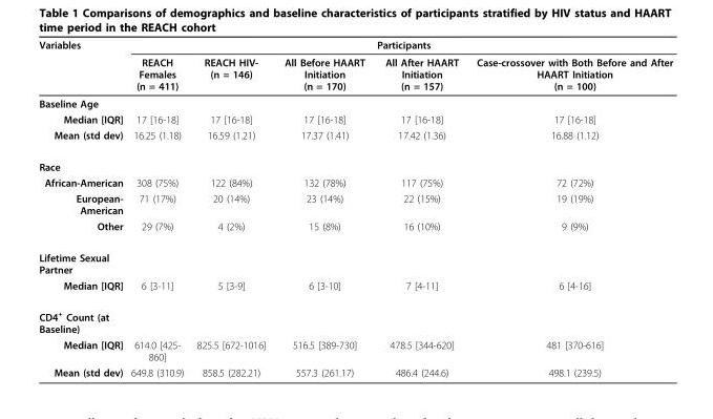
<table><thead><tr><td rowspan="2">Variables</td><td colspan="5">Participants</td></tr><tr><td>REACH Females (n = 411)</td><td>REACH HIV- (n = 146)</td><td>All Before HAART Initiation (n = 170)</td><td>All After HAART Initiation (n = 157)</td><td>Case-crossover with Both Before and After HAART Initiation (n = 100)</td></tr></thead><tbody><tr><td colspan="6">Baseline Age</td></tr><tr><td>Median [IQR]</td><td>17 [16-18]</td><td>17 [16-18]</td><td>17 [16-18]</td><td>17 [16-18]</td><td>17 [16-18]</td></tr><tr><td>Mean (std dev)</td><td>16.25 (1.18)</td><td>16.59 (1.21)</td><td>17.37 (1.41)</td><td>17.42 (1.36)</td><td>16.88 (1.12)</td></tr><tr><td colspan="6">Race</td></tr><tr><td>African-American</td><td>308 (75%)</td><td>122 (84%)</td><td>132 (78%)</td><td>117 (75%)</td><td>72 (72%)</td></tr><tr><td>European- American</td><td>71 (17%)</td><td>20 (14%)</td><td>23 (14%)</td><td>22 (15%)</td><td>19 (19%)</td></tr><tr><td>Other</td><td>29 (7%)</td><td>4 (2%)</td><td>15 (8%)</td><td>16 (10%)</td><td>9 (9%)</td></tr><tr><td colspan="6">Lifetime Sexual Partner</td></tr><tr><td>Median [IQR]</td><td>6 [3-11]</td><td>5 [3-9]</td><td>6 [3-10]</td><td>7 [4-11]</td><td>6 [4-16]</td></tr><tr><td colspan="6">CD4<sup>+</sup> Count (at Baseline)</td></tr><tr><td>Median [IQR]</td><td>614.0 [425- 860]</td><td>825.5 [672-1016]</td><td>516.5 [389-730]</td><td>478.5 [344-620]</td><td>481 [370-616]</td></tr><tr><td>Mean (std dev)</td><td>649.8 (310.9)</td><td>858.5 (282.21)</td><td>557.3 (261.17)</td><td>486.4 (244.6)</td><td>498.1 (239.5)</td></tr></tbody></table>